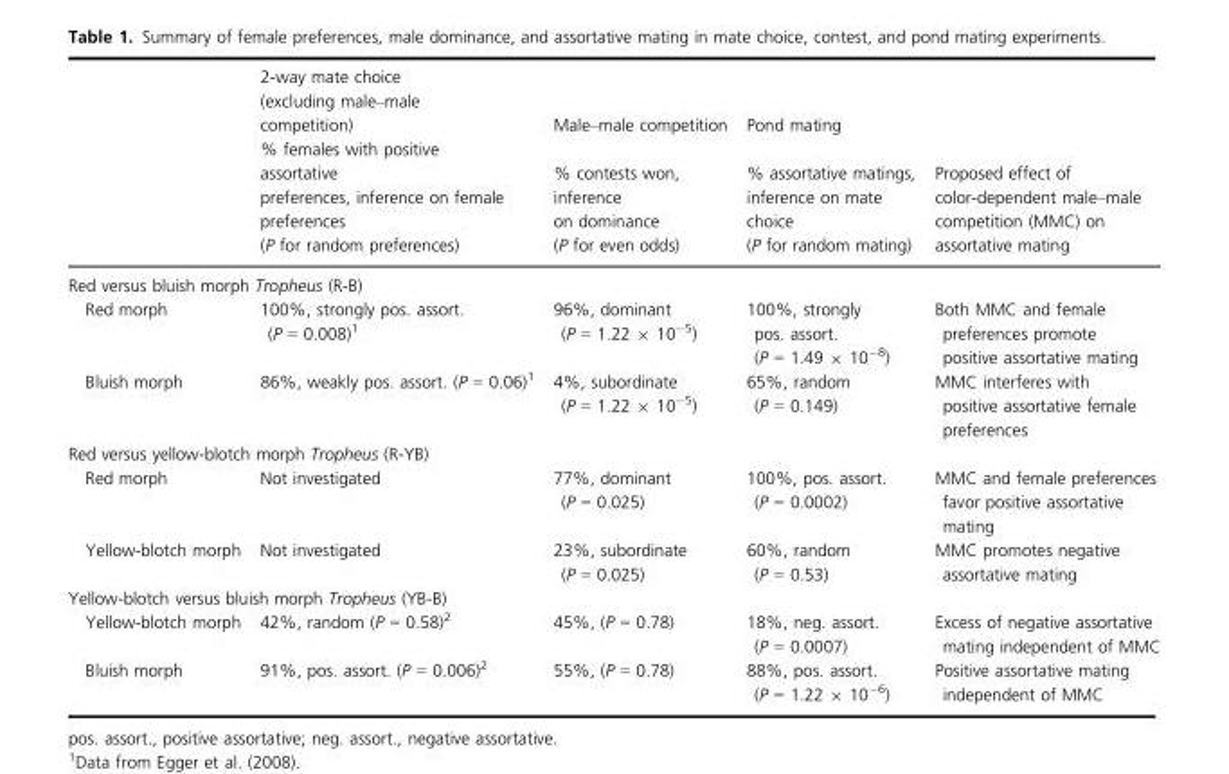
<table><thead><tr><td rowspan="2"></td><td rowspan="2">2-way mate choice (excluding male–male competition) % females with positive assortative preferences, inference on female preferences (P for random preferences)</td><td rowspan="2">Male–male competition % contests won, inference on dominance (P for even odds)</td><td rowspan="2">Pond mating % assortative matings, inference on mate choice (P for random mating)</td><td rowspan="2">Proposed effect of color-dependent male–male competition (MMC) on assortative mating</td></tr><tr></tr></thead><tbody><tr><td colspan="5">Red versus bluish morph Tropheus (R-B)</td></tr><tr><td>Red morph</td><td>100%, strongly pos. assort. (P = 0.008)<sup>1</sup></td><td>96%, dominant (P = 1.22 × 10<sup>−5</sup>)</td><td>100%, strongly pos. assort. (P = 1.49 × 10<sup>−8</sup>)</td><td>Both MMC and female preferences promote positive assortative mating</td></tr><tr><td>Bluish morph</td><td>86%, weakly pos. assort. (P = 0.06)<sup>1</sup></td><td>4%, subordinate (P = 1.22 × 10<sup>−5</sup>)</td><td>65%, random (P = 0.149)</td><td>MMC interferes with positive assortative female preferences</td></tr><tr><td colspan="5">Red versus yellow-blotch morph Tropheus (R-YB)</td></tr><tr><td>Red morph</td><td>Not investigated</td><td>77%, dominant (P = 0.025)</td><td>100%, pos. assort. (P = 0.0002)</td><td>MMC and female preferences favor positive assortative mating</td></tr><tr><td>Yellow-blotch morph</td><td>Not investigated</td><td>23%, subordinate (P = 0.025)</td><td>60%, random (P = 0.53)</td><td>MMC promotes negative assortative mating</td></tr><tr><td colspan="5">Yellow-blotch versus bluish morph Tropheus (YB-B)</td></tr><tr><td>Yellow-blotch morph</td><td>42%, random (P = 0.58)<sup>2</sup></td><td>45%, (P = 0.78)</td><td>18%, neg. assort. (P = 0.0007)</td><td>Excess of negative assortative mating independent of MMC</td></tr><tr><td>Bluish morph</td><td>91%, pos. assort. (P = 0.006)<sup>2</sup></td><td>55%, (P = 0.78)</td><td>88%, pos. assort. (P = 1.22 × 10<sup>−6</sup>)</td><td>Positive assortative mating independent of MMC</td></tr></tbody></table>